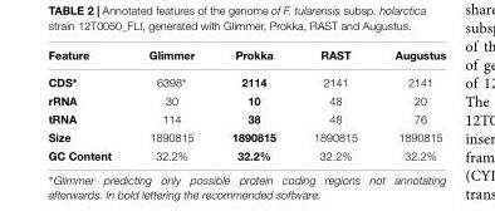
<table><thead><tr><td>Feature</td><td>Glimmer</td><td>Prokka</td><td>RAST</td><td>Augustus</td></tr></thead><tbody><tr><td>CDS∗</td><td>6398∗</td><td>2114</td><td>2141</td><td>2141</td></tr><tr><td>rRNA</td><td>30</td><td>10</td><td>48</td><td>20</td></tr><tr><td>tRNA</td><td>114</td><td>38</td><td>48</td><td>76</td></tr><tr><td>Size</td><td>1890815</td><td>1890815</td><td>1890815</td><td>1890815</td></tr><tr><td>GC Content</td><td>32.2%</td><td>32.2%</td><td>32.2%</td><td>32.2%</td></tr></tbody></table>